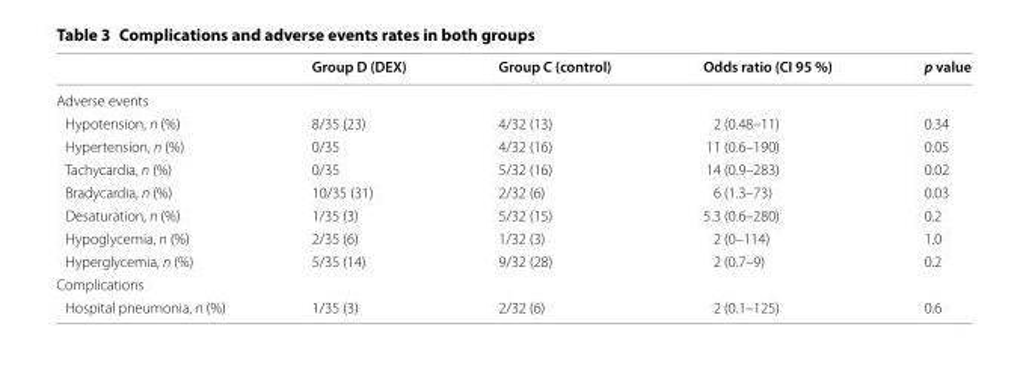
<table><thead><tr><td></td><td>Group D (DEX)</td><td>Group C (control)</td><td>Odds ratio (CI 95 %)</td><td>p value</td></tr></thead><tbody><tr><td colspan="5">Adverse events</td></tr><tr><td>Hypotension, n (%)</td><td>8/35 (23)</td><td>4/32 (13)</td><td>2 (0.48–11)</td><td>0.34</td></tr><tr><td>Hypertension, n (%)</td><td>0/35</td><td>4/32 (16)</td><td>11 (0.6–190)</td><td>0.05</td></tr><tr><td>Tachycardia, n (%)</td><td>0/35</td><td>5/32 (16)</td><td>14 (0.9–283)</td><td>0.02</td></tr><tr><td>Bradycardia, n (%)</td><td>10/35 (31)</td><td>2/32 (6)</td><td>6 (1.3–73)</td><td>0.03</td></tr><tr><td>Desaturation, n (%)</td><td>1/35 (3)</td><td>5/32 (15)</td><td>5.3 (0.6–280)</td><td>0.2</td></tr><tr><td>Hypoglycemia, n (%)</td><td>2/35 (6)</td><td>1/32 (3)</td><td>2 (0–114)</td><td>1.0</td></tr><tr><td>Hyperglycemia, n (%)</td><td>5/35 (14)</td><td>9/32 (28)</td><td>2 (0.7–9)</td><td>0.2</td></tr><tr><td colspan="5">Complications</td></tr><tr><td>Hospital pneumonia, n (%)</td><td>1/35 (3)</td><td>2/32 (6)</td><td>2 (0.1–125)</td><td>0.6</td></tr></tbody></table>